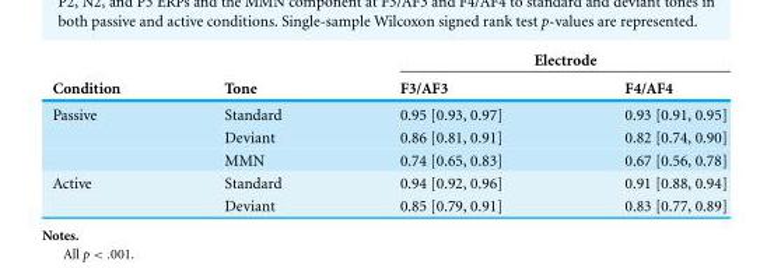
<table><thead><tr><td rowspan="2">Condition</td><td rowspan="2">Tone</td><td colspan="2">Electrode</td></tr><tr><td>F3/AF3</td><td>F4/AF4</td></tr></thead><tbody><tr><td rowspan="3">Passive</td><td>Standard</td><td>0.95 [0.93, 0.97]</td><td>0.93 [0.91, 0.95]</td></tr><tr><td>Deviant</td><td>0.86 [0.81, 0.91]</td><td>0.82 [0.74, 0.90]</td></tr><tr><td>MMN</td><td>0.74 [0.65, 0.83]</td><td>0.67 [0.56, 0.78]</td></tr><tr><td rowspan="2">Active</td><td>Standard</td><td>0.94 [0.92, 0.96]</td><td>0.91 [0.88, 0.94]</td></tr><tr><td>Deviant</td><td>0.85 [0.79, 0.91]</td><td>0.83 [0.77, 0.89]</td></tr></tbody></table>